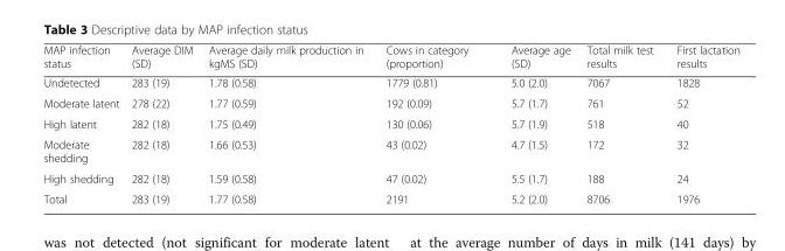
<table><thead><tr><td>MAP infection status</td><td>Average DIM (SD)</td><td>Average daily milk production in kgMS (SD)</td><td>Cows in category (proportion)</td><td>Average age (SD)</td><td>Total milk test results</td><td>First lactation results</td></tr></thead><tbody><tr><td>Undetected</td><td>283 (19)</td><td>1.78 (0.58)</td><td>1779 (0.81)</td><td>5.0 (2.0)</td><td>7067</td><td>1828</td></tr><tr><td>Moderate latent</td><td>278 (22)</td><td>1.77 (0.59)</td><td>192 (0.09)</td><td>5.7 (1.7)</td><td>761</td><td>52</td></tr><tr><td>High latent</td><td>282 (18)</td><td>1.75 (0.49)</td><td>130 (0.06)</td><td>5.7 (1.9)</td><td>518</td><td>40</td></tr><tr><td>Moderate shedding</td><td>282 (18)</td><td>1.66 (0.53)</td><td>43 (0.02)</td><td>4.7 (1.5)</td><td>172</td><td>32</td></tr><tr><td>High shedding</td><td>282 (18)</td><td>1.59 (0.58)</td><td>47 (0.02)</td><td>5.5 (1.7)</td><td>188</td><td>24</td></tr><tr><td>Total</td><td>283 (19)</td><td>1.77 (0.58)</td><td>2191</td><td>5.2 (2.0)</td><td>8706</td><td>1976</td></tr></tbody></table>